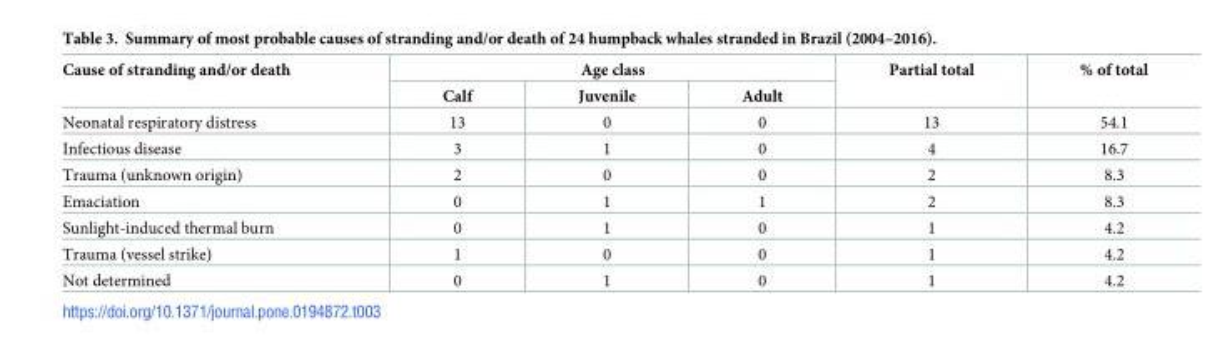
<table><thead><tr><td rowspan="2">Cause of stranding and/or death</td><td colspan="3">Age class</td><td rowspan="2">Partial total</td><td rowspan="2">% of total</td></tr><tr><td>Calf</td><td>Juvenile</td><td>Adult</td></tr></thead><tbody><tr><td>Neonatal respiratory distress</td><td>13</td><td>0</td><td>0</td><td>13</td><td>54.1</td></tr><tr><td>Infectious disease</td><td>3</td><td>1</td><td>0</td><td>4</td><td>16.7</td></tr><tr><td>Trauma (unknown origin)</td><td>2</td><td>0</td><td>0</td><td>2</td><td>8.3</td></tr><tr><td>Emaciation</td><td>0</td><td>1</td><td>1</td><td>2</td><td>8.3</td></tr><tr><td>Sunlight-induced thermal burn</td><td>0</td><td>1</td><td>0</td><td>1</td><td>4.2</td></tr><tr><td>Trauma (vessel strike)</td><td>1</td><td>0</td><td>0</td><td>1</td><td>4.2</td></tr><tr><td>Not determined</td><td>0</td><td>1</td><td>0</td><td>1</td><td>4.2</td></tr></tbody></table>